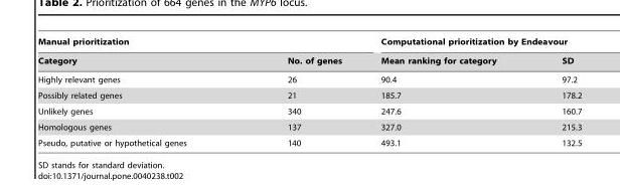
<table><thead><tr><td colspan="2">Manual prioritization</td><td colspan="2">Computational prioritization by Endeavour</td></tr><tr><td>Category</td><td>No. of genes</td><td>Mean ranking for category</td><td>SD</td></tr></thead><tbody><tr><td>Highly relevant genes</td><td>26</td><td>90.4</td><td>97.2</td></tr><tr><td>Possibly related genes</td><td>21</td><td>185.7</td><td>178.2</td></tr><tr><td>Unlikely genes</td><td>340</td><td>247.6</td><td>160.7</td></tr><tr><td>Homologous genes</td><td>137</td><td>327.0</td><td>215.3</td></tr><tr><td>Pseudo, putative or hypothetical genes</td><td>140</td><td>493.1</td><td>132.5</td></tr></tbody></table>